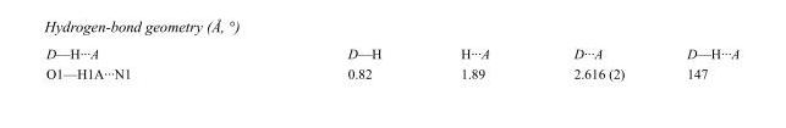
<table><tbody><tr><td>D—H···A</td><td>D—H</td><td>H···A</td><td>D···A</td><td>D—H···A</td></tr><tr><td>O1—H1A···N1</td><td>0.82</td><td>1.89</td><td>2.616 (2)</td><td>147</td></tr></tbody></table>